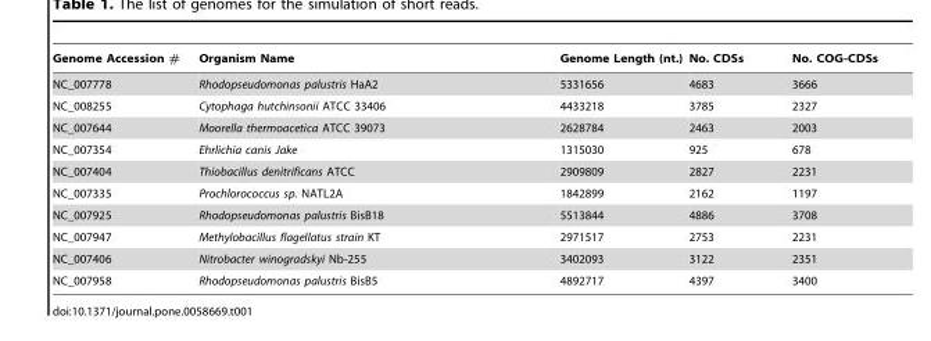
<table><thead><tr><td>Genome Accession #</td><td>Organism Name</td><td>Genome Length (nt.)</td><td>No. CDSs</td><td>No. COG-CDSs</td></tr></thead><tbody><tr><td>NC_007778</td><td>Rhodopseudomonas palustris HaA2</td><td>5331656</td><td>4683</td><td>3666</td></tr><tr><td>NC_008255</td><td>Cytophaga hutchinsonii ATCC 33406</td><td>4433218</td><td>3785</td><td>2327</td></tr><tr><td>NC_007644</td><td>Moorella thermoacetica ATCC 39073</td><td>2628784</td><td>2463</td><td>2003</td></tr><tr><td>NC_007354</td><td>Ehrlichia canis Jake</td><td>1315030</td><td>925</td><td>678</td></tr><tr><td>NC_007404</td><td>Thiobacillus denitrificans ATCC</td><td>2909809</td><td>2827</td><td>2231</td></tr><tr><td>NC_007335</td><td>Prochlorococcus sp. NATL2A</td><td>1842899</td><td>2162</td><td>1197</td></tr><tr><td>NC_007925</td><td>Rhodopseudomonas palustris BisB18</td><td>5513844</td><td>4886</td><td>3708</td></tr><tr><td>NC_007947</td><td>Methylobacillus flagellatus strain KT</td><td>2971517</td><td>2753</td><td>2231</td></tr><tr><td>NC_007406</td><td>Nitrobacter winogradskyi Nb-255</td><td>3402093</td><td>3122</td><td>2351</td></tr><tr><td>NC_007958</td><td>Rhodopseudomonas palustris BisB5</td><td>4892717</td><td>4397</td><td>3400</td></tr></tbody></table>